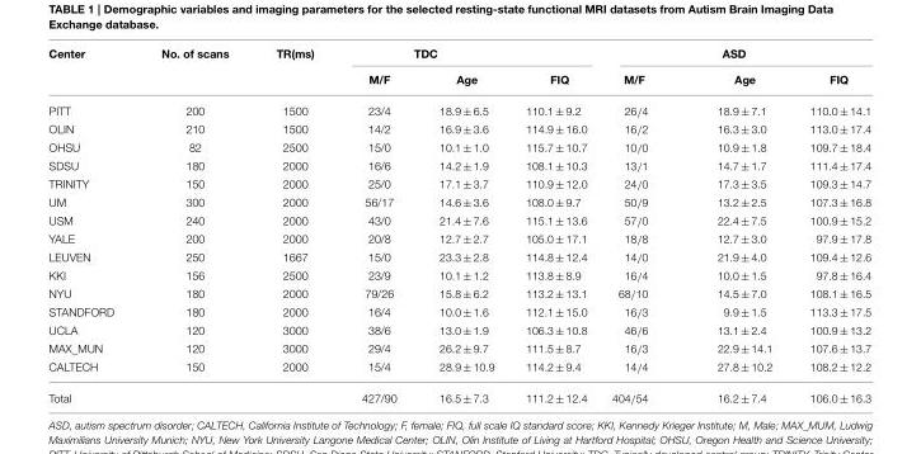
<table><thead><tr><td rowspan="2">Center</td><td rowspan="2">No. of scans</td><td rowspan="2">TR(ms)</td><td colspan="2">TDC</td><td rowspan="2">FIQ</td><td colspan="3">ASD</td></tr><tr><td>M/F</td><td>Age</td><td>M/F</td><td>Age</td><td>FIQ</td></tr></thead><tbody><tr><td>PITT</td><td>200</td><td>1500</td><td>23/4</td><td>18.9 ± 6.5</td><td>110.1 ± 9.2</td><td>26/4</td><td>18.9 ± 7.1</td><td>110.0 ± 14.1</td></tr><tr><td>OLIN</td><td>210</td><td>1500</td><td>14/2</td><td>16.9 ± 3.6</td><td>114.9 ± 16.0</td><td>16/2</td><td>16.3 ± 3.0</td><td>113.0 ± 17.4</td></tr><tr><td>OHSU</td><td>82</td><td>2500</td><td>15/0</td><td>10.1 ± 1.0</td><td>115.7 ± 10.7</td><td>10/0</td><td>10.9 ± 1.8</td><td>109.7 ± 18.4</td></tr><tr><td>SDSU</td><td>180</td><td>2000</td><td>16/6</td><td>14.2 ± 1.9</td><td>108.1 ± 10.3</td><td>13/1</td><td>14.7 ± 1.7</td><td>111.4 ± 17.4</td></tr><tr><td>TRINITY</td><td>150</td><td>2000</td><td>25/0</td><td>17.1 ± 3.7</td><td>110.9 ± 12.0</td><td>24/0</td><td>17.3 ± 3.5</td><td>109.3 ± 14.7</td></tr><tr><td>UM</td><td>300</td><td>2000</td><td>56/17</td><td>14.6 ± 3.6</td><td>108.0 ± 9.7</td><td>50/9</td><td>13.2 ± 2.5</td><td>107.3 ± 16.8</td></tr><tr><td>USM</td><td>240</td><td>2000</td><td>43/0</td><td>21.4 ± 7.6</td><td>115.1 ± 13.6</td><td>57/0</td><td>22.4 ± 7.5</td><td>100.9 ± 15.2</td></tr><tr><td>YALE</td><td>200</td><td>2000</td><td>20/8</td><td>12.7 ± 2.7</td><td>105.0 ± 17.1</td><td>18/8</td><td>12.7 ± 3.0</td><td>97.9 ± 17.8</td></tr><tr><td>LEUVEN</td><td>250</td><td>1667</td><td>15/0</td><td>23.3 ± 2.8</td><td>114.8 ± 12.4</td><td>14/0</td><td>21.9 ± 4.0</td><td>109.4 ± 12.6</td></tr><tr><td>KKI</td><td>156</td><td>2500</td><td>23/9</td><td>10.1 ± 1.2</td><td>113.8 ± 8.9</td><td>16/4</td><td>10.0 ± 1.5</td><td>97.8 ± 16.4</td></tr><tr><td>NYU</td><td>180</td><td>2000</td><td>79/26</td><td>15.8 ± 6.2</td><td>113.2 ± 13.1</td><td>68/10</td><td>14.5 ± 7.0</td><td>108.1 ± 16.5</td></tr><tr><td>STANDFORD</td><td>180</td><td>2000</td><td>16/4</td><td>10.0 ± 1.6</td><td>112.1 ± 15.0</td><td>16/3</td><td>9.9 ± 1.5</td><td>113.3 ± 17.5</td></tr><tr><td>UCLA</td><td>120</td><td>3000</td><td>38/6</td><td>13.0 ± 1.9</td><td>106.3 ± 10.8</td><td>46/6</td><td>13.1 ± 2.4</td><td>100.9 ± 13.2</td></tr><tr><td>MAX_MUN</td><td>120</td><td>3000</td><td>29/4</td><td>26.2 ± 9.7</td><td>111.5 ± 8.7</td><td>16/3</td><td>22.9 ± 14.1</td><td>107.6 ± 13.7</td></tr><tr><td>CALTECH</td><td>150</td><td>2000</td><td>15/4</td><td>28.9 ± 10.9</td><td>114.2 ± 9.4</td><td>14/4</td><td>27.8 ± 10.2</td><td>108.2 ± 12.2</td></tr><tr><td>Total</td><td></td><td></td><td>427/90</td><td>16.5 ± 7.3</td><td>111.2 ± 12.4</td><td>404/54</td><td>16.2 ± 7.4</td><td>106.0 ± 16.3</td></tr></tbody></table>